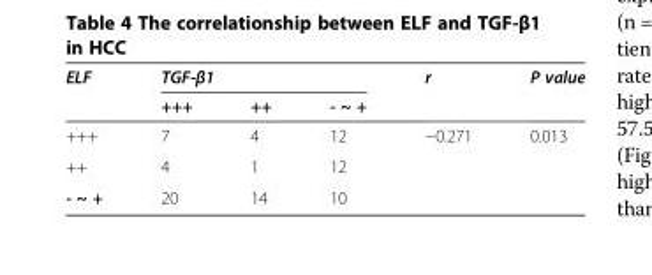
<table><thead><tr><td rowspan="2">ELF</td><td colspan="3">TGF-β1</td><td rowspan="2">r</td><td rowspan="2">P value</td></tr><tr><td>+++</td><td>++</td><td>- ~ +</td></tr></thead><tbody><tr><td>+++</td><td>7</td><td>4</td><td>12</td><td rowspan="3">−0.271</td><td rowspan="3">0.013</td></tr><tr><td>++</td><td>4</td><td>1</td><td>12</td></tr><tr><td>- ~ +</td><td>20</td><td>14</td><td>10</td></tr></tbody></table>